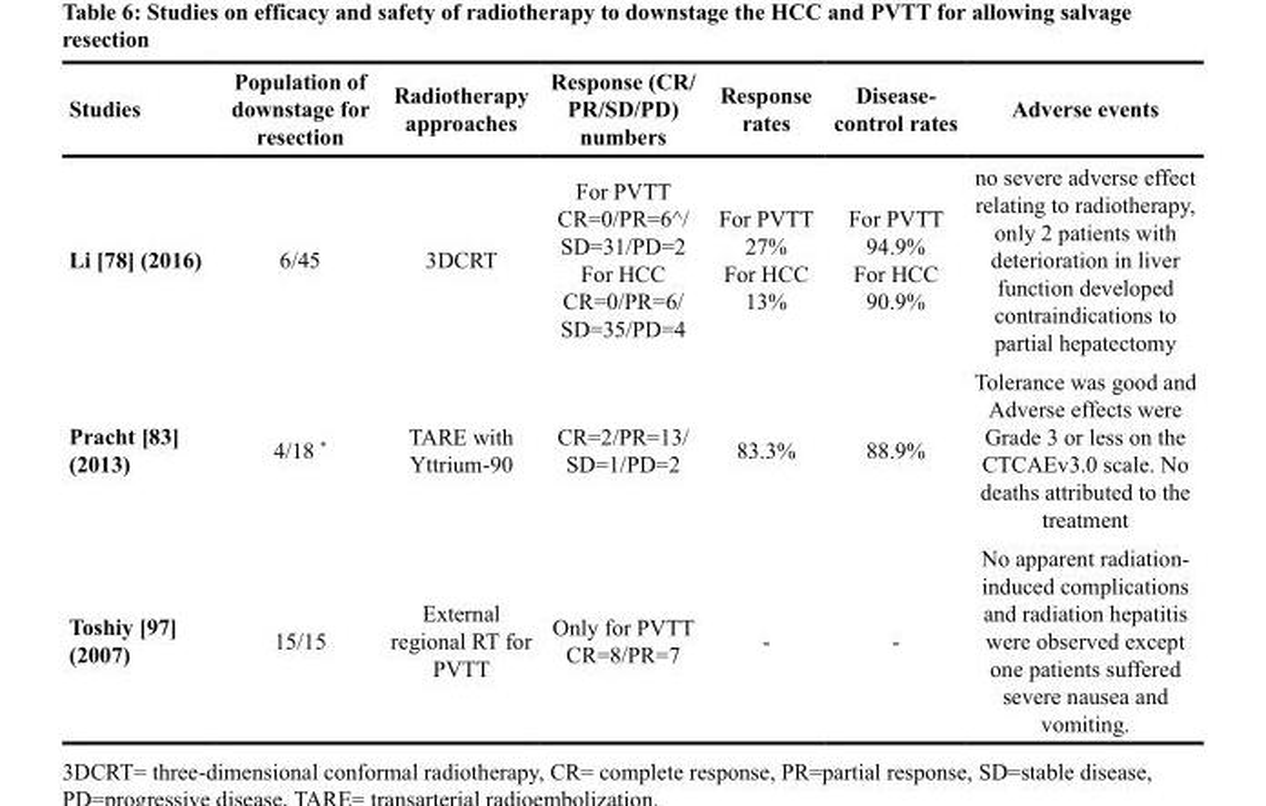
<table><thead><tr><td>Studies</td><td>Population of downstage for resection</td><td>Radiotherapy approaches</td><td>Response (CR/ PR/SD/PD) numbers</td><td>Response rates</td><td>Disease- control rates</td><td>Adverse events</td></tr></thead><tbody><tr><td>Li [78] (2016)</td><td>6/45</td><td>3DCRT</td><td>For PVTT CR=0/PR=6<sup>^</sup>/ SD=31/PD=2 For HCC CR=0/PR=6/ SD=35/PD=4</td><td>For PVTT 27% For HCC 13%</td><td>For PVTT 94.9% For HCC 90.9%</td><td>no severe adverse effect relating to radiotherapy, only 2 patients with deterioration in liver function developed contraindications to partial hepatectomy</td></tr><tr><td>Pracht [83] (2013)</td><td>4/18 *</td><td>TARE with Yttrium-90</td><td>CR=2/PR=13/ SD=1/PD=2</td><td>83.3%</td><td>88.9%</td><td>Tolerance was good and Adverse effects were Grade 3 or less on the CTCAEv3.0 scale. No deaths attributed to the treatment</td></tr><tr><td>Toshiy [97] (2007)</td><td>15/15</td><td>External regional RT for PVTT</td><td>Only for PVTT CR=8/PR=7</td><td>-</td><td>-</td><td>No apparent radiation- induced complications and radiation hepatitis were observed except one patients suffered severe nausea and vomiting.</td></tr></tbody></table>